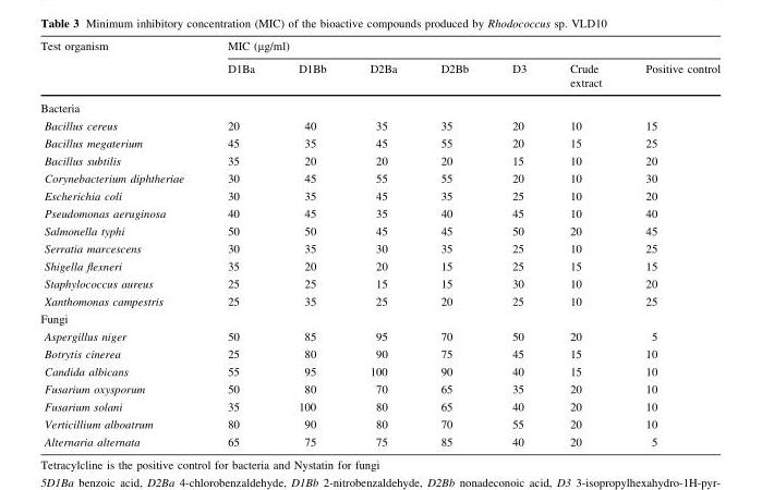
<table><thead><tr><td rowspan="2">Test organism</td><td colspan="7">MIC (µg/ml)</td></tr><tr><td>D1Ba</td><td>D1Bb</td><td>D2Ba</td><td>D2Bb</td><td>D3</td><td>Crude extract</td><td>Positive control</td></tr></thead><tbody><tr><td colspan="8">Bacteria</td></tr><tr><td>Bacillus cereus</td><td>20</td><td>40</td><td>35</td><td>35</td><td>20</td><td>10</td><td>15</td></tr><tr><td>Bacillus megaterium</td><td>45</td><td>35</td><td>45</td><td>55</td><td>20</td><td>15</td><td>25</td></tr><tr><td>Bacillus subtilis</td><td>35</td><td>20</td><td>20</td><td>20</td><td>15</td><td>10</td><td>20</td></tr><tr><td>Corynebacterium diphtheriae</td><td>30</td><td>45</td><td>55</td><td>55</td><td>20</td><td>10</td><td>30</td></tr><tr><td>Escherichia coli</td><td>30</td><td>35</td><td>45</td><td>35</td><td>25</td><td>10</td><td>20</td></tr><tr><td>Pseudomonas aeruginosa</td><td>40</td><td>45</td><td>35</td><td>40</td><td>45</td><td>10</td><td>40</td></tr><tr><td>Salmonella typhi</td><td>50</td><td>50</td><td>45</td><td>45</td><td>50</td><td>20</td><td>45</td></tr><tr><td>Serratia marcescens</td><td>30</td><td>35</td><td>30</td><td>35</td><td>25</td><td>10</td><td>25</td></tr><tr><td>Shigella flexneri</td><td>35</td><td>20</td><td>20</td><td>15</td><td>25</td><td>15</td><td>15</td></tr><tr><td>Staphylococcus aureus</td><td>25</td><td>25</td><td>15</td><td>15</td><td>30</td><td>10</td><td>20</td></tr><tr><td>Xanthomonas campestris</td><td>25</td><td>35</td><td>25</td><td>20</td><td>25</td><td>10</td><td>25</td></tr><tr><td colspan="8">Fungi</td></tr><tr><td>Aspergillus niger</td><td>50</td><td>85</td><td>95</td><td>70</td><td>50</td><td>20</td><td>5</td></tr><tr><td>Botrytis cinerea</td><td>25</td><td>80</td><td>90</td><td>75</td><td>45</td><td>15</td><td>10</td></tr><tr><td>Candida albicans</td><td>55</td><td>95</td><td>100</td><td>90</td><td>40</td><td>15</td><td>10</td></tr><tr><td>Fusarium oxysporum</td><td>50</td><td>80</td><td>70</td><td>65</td><td>35</td><td>20</td><td>10</td></tr><tr><td>Fusarium solani</td><td>35</td><td>100</td><td>80</td><td>65</td><td>40</td><td>20</td><td>10</td></tr><tr><td>Verticillium alboatrum</td><td>80</td><td>90</td><td>80</td><td>70</td><td>55</td><td>20</td><td>10</td></tr><tr><td>Alternaria alternata</td><td>65</td><td>75</td><td>75</td><td>85</td><td>40</td><td>20</td><td>5</td></tr></tbody></table>